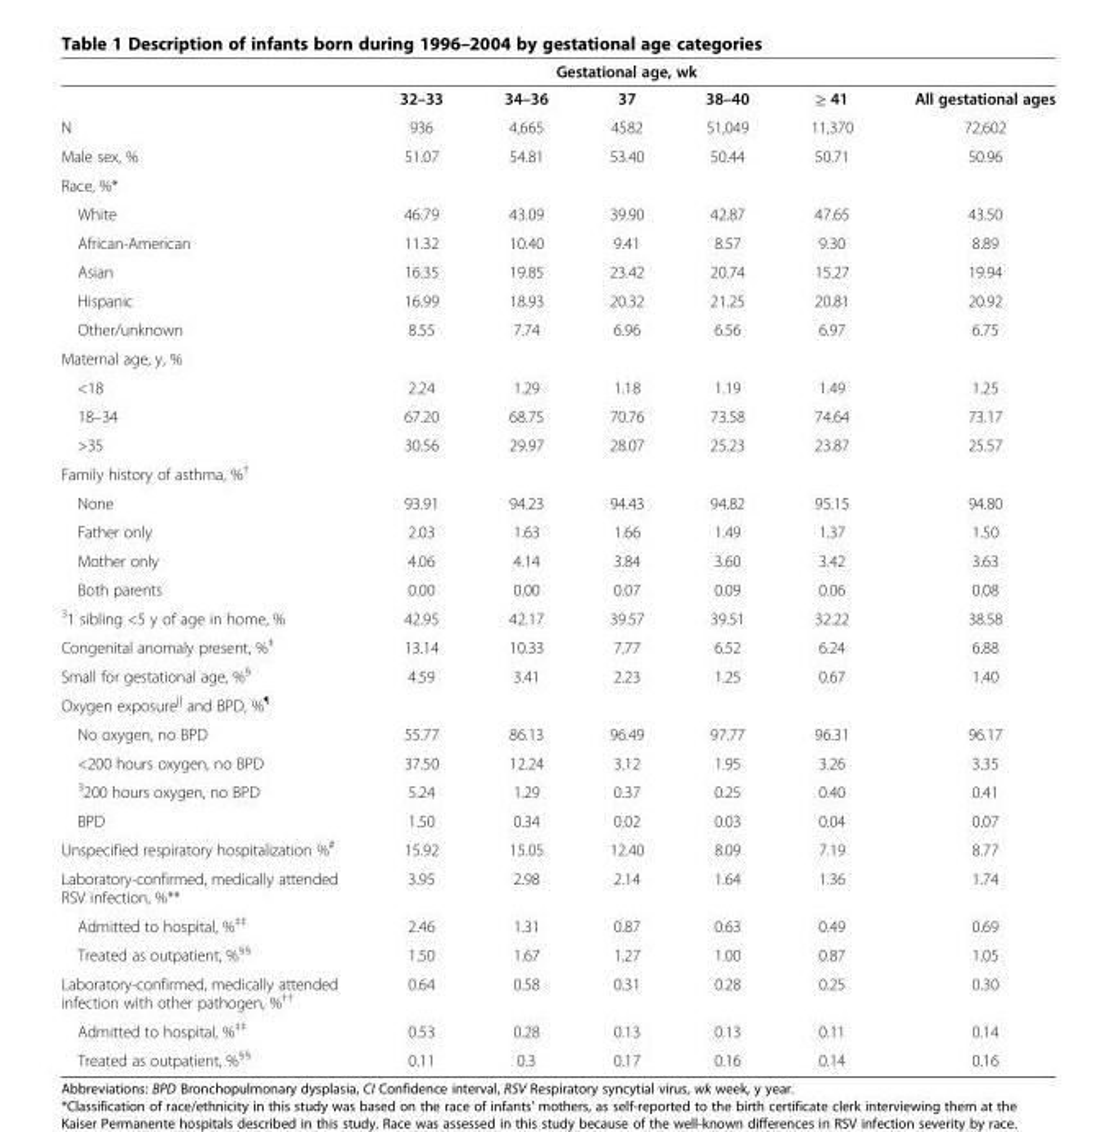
<table><thead><tr><td rowspan="2"></td><td colspan="5">Gestational age, wk</td><td rowspan="2">All gestational ages</td></tr><tr><td>32–33</td><td>34–36</td><td>37</td><td>38–40</td><td>≥ 41</td></tr></thead><tbody><tr><td>N</td><td>936</td><td>4,665</td><td>4582</td><td>51,049</td><td>11,370</td><td>72,602</td></tr><tr><td>Male sex, %</td><td>51.07</td><td>54.81</td><td>53.40</td><td>50.44</td><td>50.71</td><td>50.96</td></tr><tr><td colspan="7">Race, %*</td></tr><tr><td>White</td><td>46.79</td><td>43.09</td><td>39.90</td><td>42.87</td><td>47.65</td><td>43.50</td></tr><tr><td>African-American</td><td>11.32</td><td>10.40</td><td>9.41</td><td>8.57</td><td>9.30</td><td>8.89</td></tr><tr><td>Asian</td><td>16.35</td><td>19.85</td><td>23.42</td><td>20.74</td><td>15.27</td><td>19.94</td></tr><tr><td>Hispanic</td><td>16.99</td><td>18.93</td><td>20.32</td><td>21.25</td><td>20.81</td><td>20.92</td></tr><tr><td>Other/unknown</td><td>8.55</td><td>7.74</td><td>6.96</td><td>6.56</td><td>6.97</td><td>6.75</td></tr><tr><td colspan="7">Maternal age, y, %</td></tr><tr><td>&lt;18</td><td>2.24</td><td>1.29</td><td>1.18</td><td>1.19</td><td>1.49</td><td>1.25</td></tr><tr><td>18–34</td><td>67.20</td><td>68.75</td><td>70.76</td><td>73.58</td><td>74.64</td><td>73.17</td></tr><tr><td>&gt;35</td><td>30.56</td><td>29.97</td><td>28.07</td><td>25.23</td><td>23.87</td><td>25.57</td></tr><tr><td colspan="7">Family history of asthma, %<sup>†</sup></td></tr><tr><td>None</td><td>93.91</td><td>94.23</td><td>94.43</td><td>94.82</td><td>95.15</td><td>94.80</td></tr><tr><td>Father only</td><td>2.03</td><td>1.63</td><td>1.66</td><td>1.49</td><td>1.37</td><td>1.50</td></tr><tr><td>Mother only</td><td>4.06</td><td>4.14</td><td>3.84</td><td>3.60</td><td>3.42</td><td>3.63</td></tr><tr><td>Both parents</td><td>0.00</td><td>0.00</td><td>0.07</td><td>0.09</td><td>0.06</td><td>0.08</td></tr><tr><td><sup>3</sup>1 sibling &lt;5 y of age in home, %</td><td>42.95</td><td>42.17</td><td>39.57</td><td>39.51</td><td>32.22</td><td>38.58</td></tr><tr><td>Congenital anomaly present, %<sup>‡</sup></td><td>13.14</td><td>10.33</td><td>7.77</td><td>6.52</td><td>6.24</td><td>6.88</td></tr><tr><td>Small for gestational age, %<sup>§</sup></td><td>4.59</td><td>3.41</td><td>2.23</td><td>1.25</td><td>0.67</td><td>1.40</td></tr><tr><td colspan="7">Oxygen exposure<sup>||</sup> and BPD, %<sup>¶</sup></td></tr><tr><td>No oxygen, no BPD</td><td>55.77</td><td>86.13</td><td>96.49</td><td>97.77</td><td>96.31</td><td>96.17</td></tr><tr><td>&lt;200 hours oxygen, no BPD</td><td>37.50</td><td>12.24</td><td>3.12</td><td>1.95</td><td>3.26</td><td>3.35</td></tr><tr><td><sup>3</sup>200 hours oxygen, no BPD</td><td>5.24</td><td>1.29</td><td>0.37</td><td>0.25</td><td>0.40</td><td>0.41</td></tr><tr><td>BPD</td><td>1.50</td><td>0.34</td><td>0.02</td><td>0.03</td><td>0.04</td><td>0.07</td></tr><tr><td>Unspecified respiratory hospitalization %<sup>#</sup></td><td>15.92</td><td>15.05</td><td>12.40</td><td>8.09</td><td>7.19</td><td>8.77</td></tr><tr><td>Laboratory-confirmed, medically attended RSV infection, %**</td><td>3.95</td><td>2.98</td><td>2.14</td><td>1.64</td><td>1.36</td><td>1.74</td></tr><tr><td>Admitted to hospital, %<sup>‡‡</sup></td><td>2.46</td><td>1.31</td><td>0.87</td><td>0.63</td><td>0.49</td><td>0.69</td></tr><tr><td>Treated as outpatient, %<sup>§§</sup></td><td>1.50</td><td>1.67</td><td>1.27</td><td>1.00</td><td>0.87</td><td>1.05</td></tr><tr><td>Laboratory-confirmed, medically attended infection with other pathogen, %<sup>††</sup></td><td>0.64</td><td>0.58</td><td>0.31</td><td>0.28</td><td>0.25</td><td>0.30</td></tr><tr><td>Admitted to hospital, %<sup>‡‡</sup></td><td>0.53</td><td>0.28</td><td>0.13</td><td>0.13</td><td>0.11</td><td>0.14</td></tr><tr><td>Treated as outpatient, %<sup>§§</sup></td><td>0.11</td><td>0.3</td><td>0.17</td><td>0.16</td><td>0.14</td><td>0.16</td></tr></tbody></table>